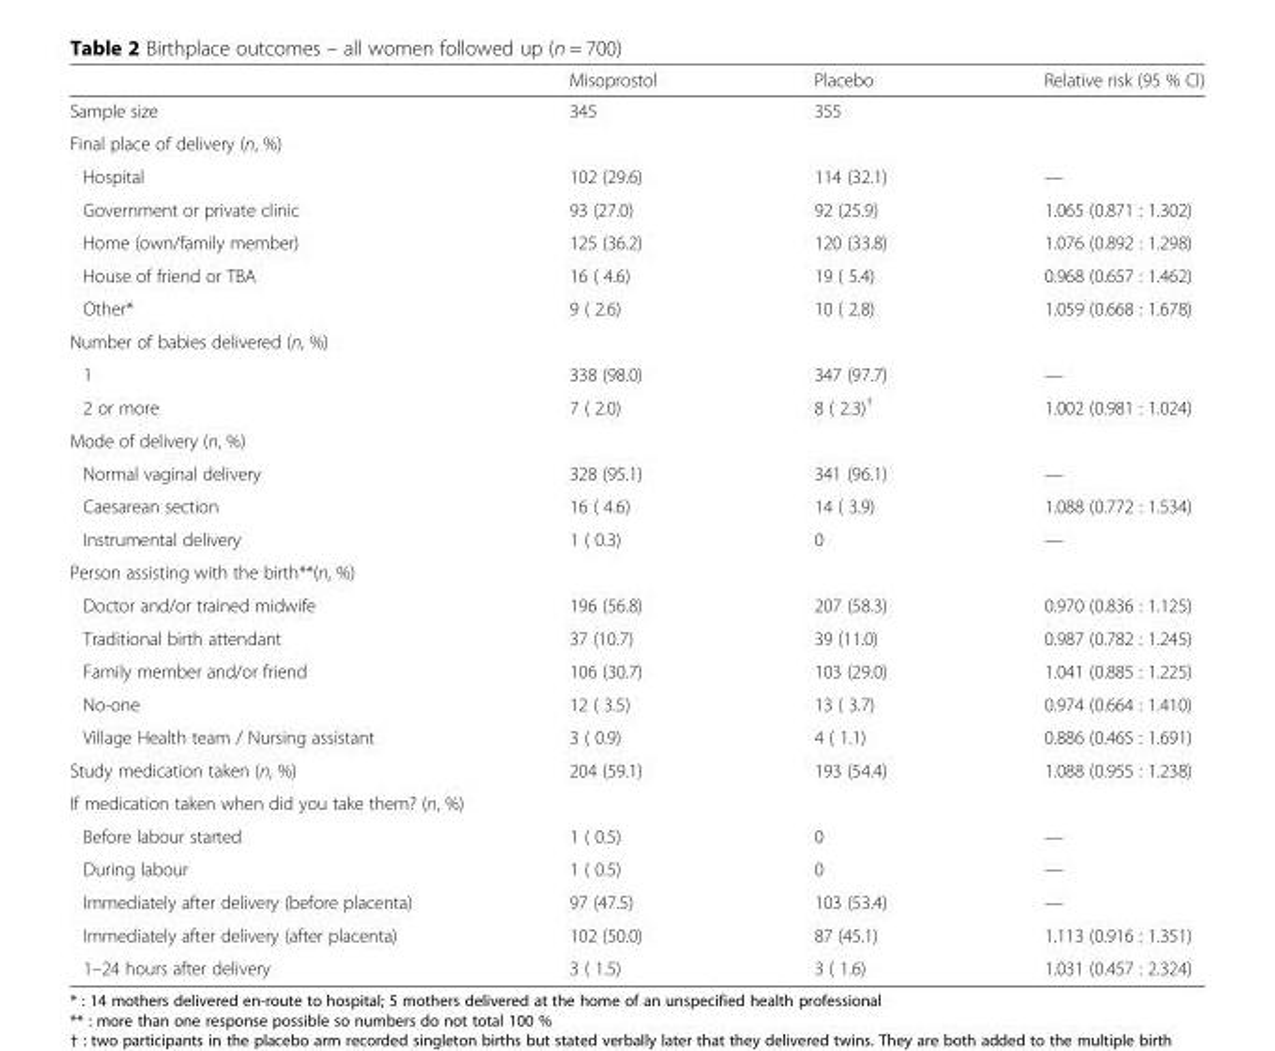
<table><thead><tr><td></td><td>Misoprostol</td><td>Placebo</td><td>Relative risk (95 % CI)</td></tr></thead><tbody><tr><td>Sample size</td><td>345</td><td>355</td><td></td></tr><tr><td colspan="4">Final place of delivery (n, %)</td></tr><tr><td>Hospital</td><td>102 (29.6)</td><td>114 (32.1)</td><td>—</td></tr><tr><td>Government or private clinic</td><td>93 (27.0)</td><td>92 (25.9)</td><td>1.065 (0.871 : 1.302)</td></tr><tr><td>Home (own/family member)</td><td>125 (36.2)</td><td>120 (33.8)</td><td>1.076 (0.892 : 1.298)</td></tr><tr><td>House of friend or TBA</td><td>16 ( 4.6)</td><td>19 ( 5.4)</td><td>0.968 (0.657 : 1.462)</td></tr><tr><td>Other*</td><td>9 ( 2.6)</td><td>10 ( 2.8)</td><td>1.059 (0.668 : 1.678)</td></tr><tr><td colspan="4">Number of babies delivered (n, %)</td></tr><tr><td>1</td><td>338 (98.0)</td><td>347 (97.7)</td><td>—</td></tr><tr><td>2 or more</td><td>7 ( 2.0)</td><td>8 ( 2.3)<sup>†</sup></td><td>1.002 (0.981 : 1.024)</td></tr><tr><td colspan="4">Mode of delivery (n, %)</td></tr><tr><td>Normal vaginal delivery</td><td>328 (95.1)</td><td>341 (96.1)</td><td>—</td></tr><tr><td>Caesarean section</td><td>16 ( 4.6)</td><td>14 ( 3.9)</td><td>1.088 (0.772 : 1.534)</td></tr><tr><td>Instrumental delivery</td><td>1 ( 0.3)</td><td>0</td><td>—</td></tr><tr><td colspan="4">Person assisting with the birth**(n, %)</td></tr><tr><td>Doctor and/or trained midwife</td><td>196 (56.8)</td><td>207 (58.3)</td><td>0.970 (0.836 : 1.125)</td></tr><tr><td>Traditional birth attendant</td><td>37 (10.7)</td><td>39 (11.0)</td><td>0.987 (0.782 : 1.245)</td></tr><tr><td>Family member and/or friend</td><td>106 (30.7)</td><td>103 (29.0)</td><td>1.041 (0.885 : 1.225)</td></tr><tr><td>No-one</td><td>12 ( 3.5)</td><td>13 ( 3.7)</td><td>0.974 (0.664 : 1.410)</td></tr><tr><td>Village Health team / Nursing assistant</td><td>3 ( 0.9)</td><td>4 ( 1.1)</td><td>0.886 (0.465 : 1.691)</td></tr><tr><td>Study medication taken (n, %)</td><td>204 (59.1)</td><td>193 (54.4)</td><td>1.088 (0.955 : 1.238)</td></tr><tr><td colspan="4">If medication taken when did you take them? (n, %)</td></tr><tr><td>Before labour started</td><td>1 ( 0.5)</td><td>0</td><td>—</td></tr><tr><td>During labour</td><td>1 ( 0.5)</td><td>0</td><td>—</td></tr><tr><td>Immediately after delivery (before placenta)</td><td>97 (47.5)</td><td>103 (53.4)</td><td>—</td></tr><tr><td>Immediately after delivery (after placenta)</td><td>102 (50.0)</td><td>87 (45.1)</td><td>1.113 (0.916 : 1.351)</td></tr><tr><td>1–24 hours after delivery</td><td>3 ( 1.5)</td><td>3 ( 1.6)</td><td>1.031 (0.457 : 2.324)</td></tr></tbody></table>